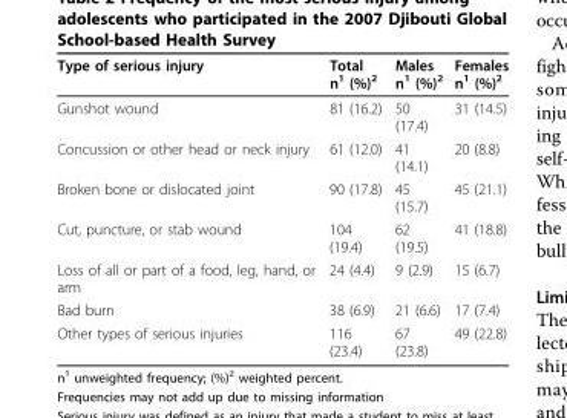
<table><thead><tr><td>Type of serious injury</td><td>Total n<sup>1</sup> (%)<sup>2</sup></td><td>Males n<sup>1</sup> (%)<sup>2</sup></td><td>Females n<sup>1</sup> (%)<sup>2</sup></td></tr></thead><tbody><tr><td>Gunshot wound</td><td>81 (16.2)</td><td>50 (17.4)</td><td>31 (14.5)</td></tr><tr><td>Concussion or other head or neck injury</td><td>61 (12.0)</td><td>41 (14.1)</td><td>20 (8.8)</td></tr><tr><td>Broken bone or dislocated joint</td><td>90 (17.8)</td><td>45 (15.7)</td><td>45 (21.1)</td></tr><tr><td>Cut, puncture, or stab wound</td><td>104 (19.4)</td><td>62 (19.5)</td><td>41 (18.8)</td></tr><tr><td>Loss of all or part of a food, leg, hand, or arm</td><td>24 (4.4)</td><td>9 (2.9)</td><td>15 (6.7)</td></tr><tr><td>Bad burn</td><td>38 (6.9)</td><td>21 (6.6)</td><td>17 (7.4)</td></tr><tr><td>Other types of serious injuries</td><td>116 (23.4)</td><td>67 (23.8)</td><td>49 (22.8)</td></tr></tbody></table>